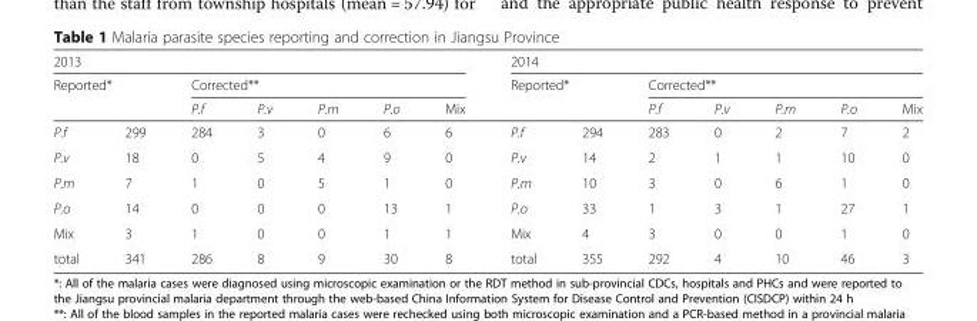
<table><thead><tr><td colspan="7">2013</td><td colspan="7">2014</td></tr><tr><td colspan="2">Reported*</td><td colspan="5">Corrected**</td><td colspan="2">Reported*</td><td colspan="5">Corrected**</td></tr><tr><td></td><td></td><td>P.f</td><td>P.v</td><td>P.m</td><td>P.o</td><td>Mix</td><td></td><td></td><td>P.f</td><td>P.v</td><td>P.m</td><td>P.o</td><td>Mix</td></tr></thead><tbody><tr><td>P.f</td><td>299</td><td>284</td><td>3</td><td>0</td><td>6</td><td>6</td><td>P.f</td><td>294</td><td>283</td><td>0</td><td>2</td><td>7</td><td>2</td></tr><tr><td>P.v</td><td>18</td><td>0</td><td>5</td><td>4</td><td>9</td><td>0</td><td>P.v</td><td>14</td><td>2</td><td>1</td><td>1</td><td>10</td><td>0</td></tr><tr><td>P.m</td><td>7</td><td>1</td><td>0</td><td>5</td><td>1</td><td>0</td><td>P.m</td><td>10</td><td>3</td><td>0</td><td>6</td><td>1</td><td>0</td></tr><tr><td>P.o</td><td>14</td><td>0</td><td>0</td><td>0</td><td>13</td><td>1</td><td>P.o</td><td>33</td><td>1</td><td>3</td><td>1</td><td>27</td><td>1</td></tr><tr><td>Mix</td><td>3</td><td>1</td><td>0</td><td>0</td><td>1</td><td>1</td><td>Mix</td><td>4</td><td>3</td><td>0</td><td>0</td><td>1</td><td>0</td></tr><tr><td>total</td><td>341</td><td>286</td><td>8</td><td>9</td><td>30</td><td>8</td><td>total</td><td>355</td><td>292</td><td>4</td><td>10</td><td>46</td><td>3</td></tr></tbody></table>